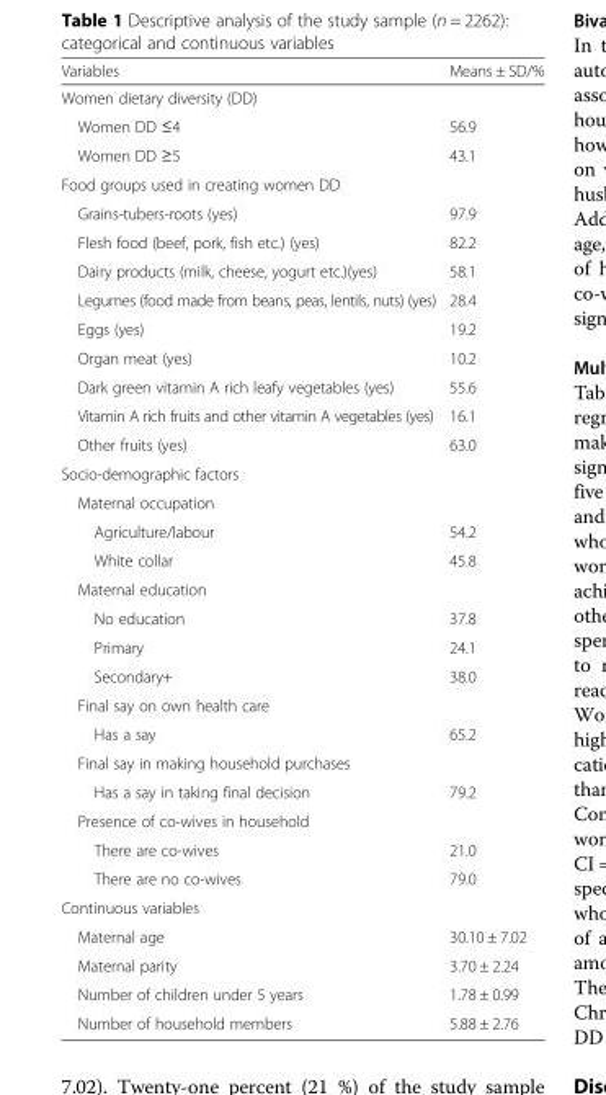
<table><thead><tr><td>Variables</td><td>Means ± SD/%</td></tr></thead><tbody><tr><td colspan="2">Women dietary diversity (DD)</td></tr><tr><td>Women DD ≤4</td><td>56.9</td></tr><tr><td>Women DD ≥5</td><td>43.1</td></tr><tr><td colspan="2">Food groups used in creating women DD</td></tr><tr><td>Grains-tubers-roots (yes)</td><td>97.9</td></tr><tr><td>Flesh food (beef, pork, fish etc.) (yes)</td><td>82.2</td></tr><tr><td>Dairy products (milk, cheese, yogurt etc.)(yes)</td><td>58.1</td></tr><tr><td>Legumes (food made from beans, peas, lentils, nuts) (yes)</td><td>28.4</td></tr><tr><td>Eggs (yes)</td><td>19.2</td></tr><tr><td>Organ meat (yes)</td><td>10.2</td></tr><tr><td>Dark green vitamin A rich leafy vegetables (yes)</td><td>55.6</td></tr><tr><td>Vitamin A rich fruits and other vitamin A vegetables (yes)</td><td>16.1</td></tr><tr><td>Other fruits (yes)</td><td>63.0</td></tr><tr><td colspan="2">Socio-demographic factors</td></tr><tr><td colspan="2">Maternal occupation</td></tr><tr><td>Agriculture/labour</td><td>54.2</td></tr><tr><td>White collar</td><td>45.8</td></tr><tr><td colspan="2">Maternal education</td></tr><tr><td>No education</td><td>37.8</td></tr><tr><td>Primary</td><td>24.1</td></tr><tr><td>Secondary+</td><td>38.0</td></tr><tr><td colspan="2">Final say on own health care</td></tr><tr><td>Has a say</td><td>65.2</td></tr><tr><td colspan="2">Final say in making household purchases</td></tr><tr><td>Has a say in taking final decision</td><td>79.2</td></tr><tr><td colspan="2">Presence of co-wives in household</td></tr><tr><td>There are co-wives</td><td>21.0</td></tr><tr><td>There are no co-wives</td><td>79.0</td></tr><tr><td colspan="2">Continuous variables</td></tr><tr><td>Maternal age</td><td>30.10 ± 7.02</td></tr><tr><td>Maternal parity</td><td>3.70 ± 2.24</td></tr><tr><td>Number of children under 5 years</td><td>1.78 ± 0.99</td></tr><tr><td>Number of household members</td><td>5.88 ± 2.76</td></tr></tbody></table>